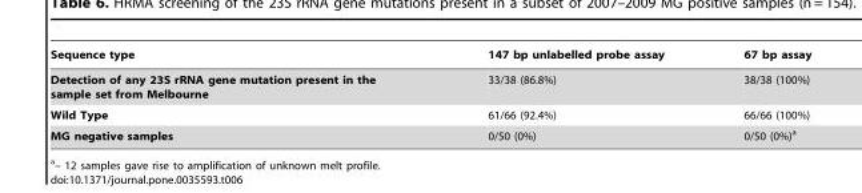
<table><thead><tr><td>Sequence type</td><td>147 bp unlabelled probe assay</td><td>67 bp assay</td></tr></thead><tbody><tr><td>Detection of any 23S rRNA gene mutation present in the sample set from Melbourne</td><td>33/38 (86.8%)</td><td>38/38 (100%)</td></tr><tr><td>Wild Type</td><td>61/66 (92.4%)</td><td>66/66 (100%)</td></tr><tr><td>MG negative samples</td><td>0/50 (0%)</td><td>0/50 (0%)<sup>a</sup></td></tr></tbody></table>